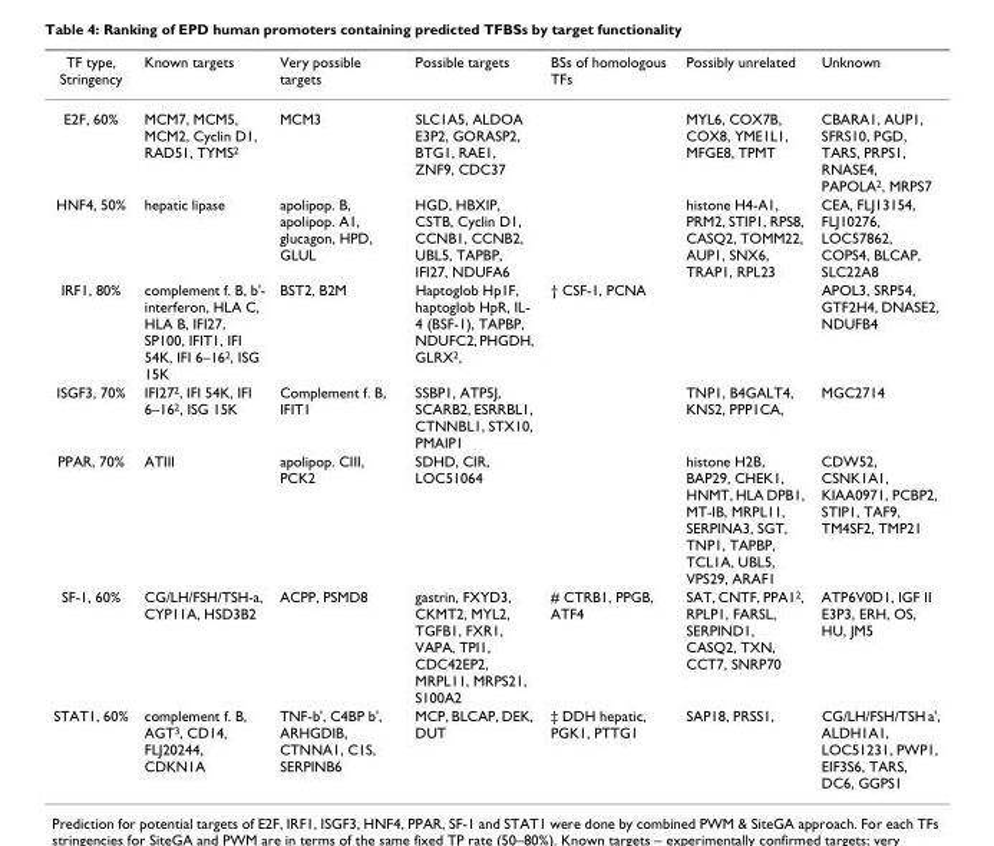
<table><thead><tr><td>TF type, Stringency</td><td>Known targets</td><td>Very possible targets</td><td>Possible targets</td><td>BSs of homologous TFs</td><td>Possibly unrelated</td><td>Unknown</td></tr></thead><tbody><tr><td>E2F, 60%</td><td>MCM7, MCM5, MCM2, Cyclin D1, RAD51, TYMS<sup>2</sup></td><td>MCM3</td><td>SLC1A5, ALDOA E3P2, GORASP2, BTG1, RAE1, ZNF9, CDC37</td><td></td><td>MYL6, COX7B, COX8, YME1L1, MFGE8, TPMT</td><td>CBARA1, AUP1, SFRS10, PGD, TARS, PRPS1, RNASE4, PAPOLA<sup>2</sup>, MRPS7</td></tr><tr><td>HNF4, 50%</td><td>hepatic lipase</td><td>apolipop. B, apolipop. A1, glucagon, HPD, GLUL</td><td>HGD, HBXIP, CSTB, Cyclin D1, CCNB1, CCNB2, UBL5, TAPBP, IFI27, NDUFA6</td><td></td><td>histone H4-A1, PRM2, STIP1, RPS8, CASQ2, TOMM22, AUP1, SNX6, TRAP1, RPL23</td><td>CEA, FLJ13154, FLJ10276, LOC57862, COPS4, BLCAP, SLC22A8</td></tr><tr><td>IRF1, 80%</td><td>complement f. B, b&#x27;- interferon, HLA C, HLA B, IFI27, SP100, IFIT1, IFI 54K, IFI 6–16<sup>2</sup>, ISG 15K</td><td>BST2, B2M</td><td>Haptoglob Hp1F, haptoglob HpR, IL- 4 (BSF-1), TAPBP, NDUFC2, PHGDH, GLRX<sup>2</sup>,</td><td>† CSF-1, PCNA</td><td></td><td>APOL3, SRP54, GTF2H4, DNASE2, NDUFB4</td></tr><tr><td>ISGF3, 70%</td><td>IFI27<sup>2</sup>, IFI 54K, IFI 6–16<sup>2</sup>, ISG 15K</td><td>Complement f. B, IFIT1</td><td>SSBP1, ATP5J, SCARB2, ESRRBL1, CTNNBL1, STX10, PMAIP1</td><td></td><td>TNP1, B4GALT4, KNS2, PPP1CA,</td><td>MGC2714</td></tr><tr><td>PPAR, 70%</td><td>ATIII</td><td>apolipop. CIII, PCK2</td><td>SDHD, CIR, LOC51064</td><td></td><td>histone H2B, BAP29, CHEK1, HNMT, HLA DPB1, MT-IB, MRPL11, SERPINA3, SGT, TNP1, TAPBP, TCL1A, UBL5, VPS29, ARAF1</td><td>CDW52, CSNK1A1, KIAA0971, PCBP2, STIP1, TAF9, TM4SF2, TMP21</td></tr><tr><td>SF-1, 60%</td><td>CG/LH/FSH/TSH-a, CYP11A, HSD3B2</td><td>ACPP, PSMD8</td><td>gastrin, FXYD3, CKMT2, MYL2, TGFB1, FXR1, VAPA, TPI1, CDC42EP2, MRPL11, MRPS21, S100A2</td><td># CTRB1, PPGB, ATF4</td><td>SAT, CNTF, PPA1<sup>2</sup>, RPLP1, FARSL, SERPIND1, CASQ2, TXN, CCT7, SNRP70</td><td>ATP6V0D1, IGF II E3P3, ERH, OS, HU, JM5</td></tr><tr><td>STAT1, 60%</td><td>complement f. B, AGT<sup>3</sup>, CD14, FLJ20244, CDKN1A</td><td>TNF-b&#x27;, C4BP b&#x27;, ARHGDIB, CTNNA1, C1S, SERPINB6</td><td>MCP, BLCAP, DEK, DUT</td><td>‡ DDH hepatic, PGK1, PTTG1</td><td>SAP18, PRSS1,</td><td>CG/LH/FSH/TSH a&#x27;, ALDH1A1, LOC51231, PWP1, EIF3S6, TARS, DC6, GGPS1</td></tr></tbody></table>